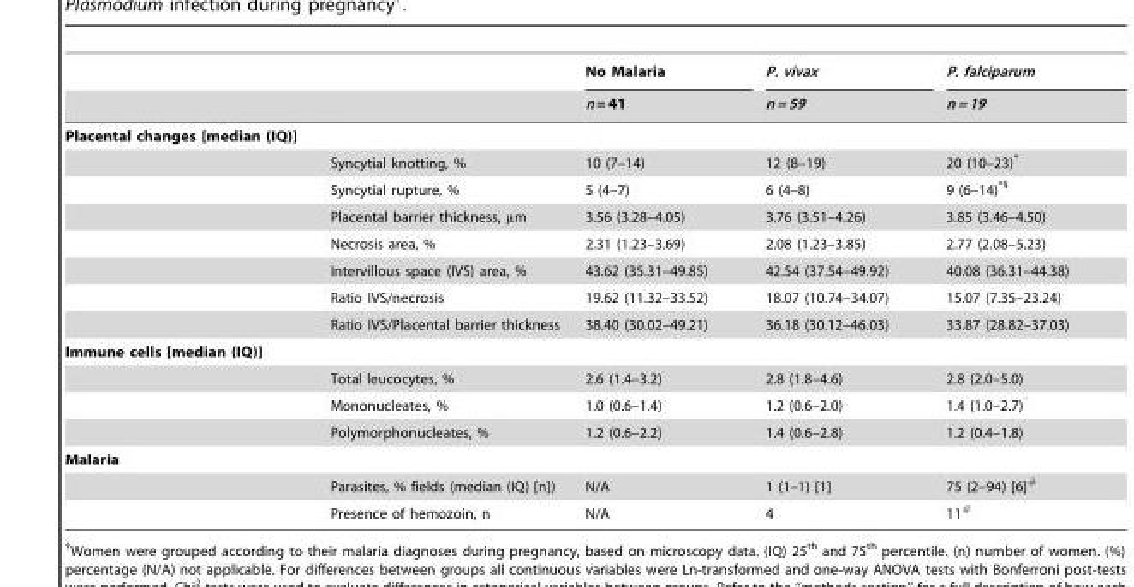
<table><thead><tr><td rowspan="2"></td><td rowspan="2"></td><td rowspan="2">No Malaria n = 41</td><td rowspan="2">P. vivax n = 59</td><td rowspan="2">P. falciparum n = 19</td></tr><tr></tr></thead><tbody><tr><td colspan="5">Placental changes [median (IQ)]</td></tr><tr><td></td><td>Syncytial knotting, %</td><td>10 (7–14)</td><td>12 (8–19)</td><td>20 (10–23)*</td></tr><tr><td></td><td>Syncytial rupture, %</td><td>5 (4–7)</td><td>6 (4–8)</td><td>9 (6–14)*§</td></tr><tr><td></td><td>Placental barrier thickness, µm</td><td>3.56 (3.28–4.05)</td><td>3.76 (3.51–4.26)</td><td>3.85 (3.46–4.50)</td></tr><tr><td></td><td>Necrosis area, %</td><td>2.31 (1.23–3.69)</td><td>2.08 (1.23–3.85)</td><td>2.77 (2.08–5.23)</td></tr><tr><td></td><td>Intervillous space (IVS) area, %</td><td>43.62 (35.31–49.85)</td><td>42.54 (37.54–49.92)</td><td>40.08 (36.31–44.38)</td></tr><tr><td></td><td>Ratio IVS/necrosis</td><td>19.62 (11.32–33.52)</td><td>18.07 (10.74–34.07)</td><td>15.07 (7.35–23.24)</td></tr><tr><td></td><td>Ratio IVS/Placental barrier thickness</td><td>38.40 (30.02–49.21)</td><td>36.18 (30.12–46.03)</td><td>33.87 (28.82–37.03)</td></tr><tr><td colspan="5">Immune cells [median (IQ)]</td></tr><tr><td></td><td>Total leucocytes, %</td><td>2.6 (1.4–3.2)</td><td>2.8 (1.8–4.6)</td><td>2.8 (2.0–5.0)</td></tr><tr><td></td><td>Mononucleates, %</td><td>1.0 (0.6–1.4)</td><td>1.2 (0.6–2.0)</td><td>1.4 (1.0–2.7)°</td></tr><tr><td></td><td>Polymorphonucleates, %</td><td>1.2 (0.6–2.2)</td><td>1.4 (0.6–2.8)</td><td>1.2 (0.4–1.8)</td></tr><tr><td colspan="5">Malaria</td></tr><tr><td></td><td>Parasites, % fields (median (IQ) [n])</td><td>N/A</td><td>1 (1–1) [1]</td><td>75 (2–94) [6]#</td></tr><tr><td></td><td>Presence of hemozoin, n</td><td>N/A</td><td>4</td><td>11#</td></tr></tbody></table>